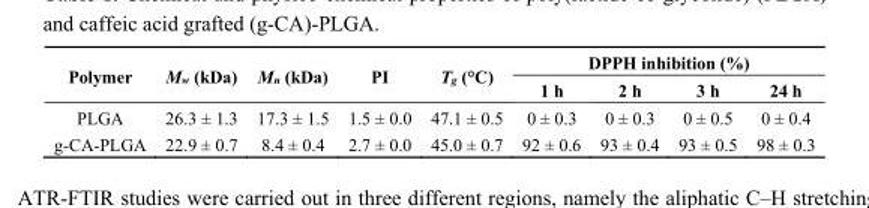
<table><thead><tr><td rowspan="2">Polymer</td><td rowspan="2">M<sub>w</sub> (kDa)</td><td rowspan="2">M<sub>n</sub> (kDa)</td><td rowspan="2">PI</td><td rowspan="2">T<sub>g</sub> (°C)</td><td colspan="4">DPPH inhibition (%)</td></tr><tr><td>1 h</td><td>2 h</td><td>3 h</td><td>24 h</td></tr></thead><tbody><tr><td>PLGA</td><td>26.3 ± 1.3</td><td>17.3 ± 1.5</td><td>1.5 ± 0.0</td><td>47.1 ± 0.5</td><td>0 ± 0.3</td><td>0 ± 0.3</td><td>0 ± 0.5</td><td>0 ± 0.4</td></tr><tr><td>g-CA-PLGA</td><td>22.9 ± 0.7</td><td>8.4 ± 0.4</td><td>2.7 ± 0.0</td><td>45.0 ± 0.7</td><td>92 ± 0.6</td><td>93 ± 0.4</td><td>93 ± 0.5</td><td>98 ± 0.3</td></tr></tbody></table>